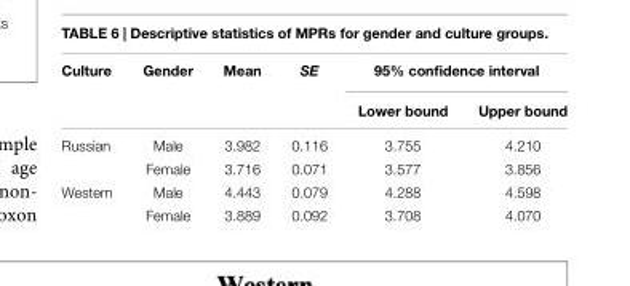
<table><thead><tr><td rowspan="2">Culture</td><td rowspan="2">Gender</td><td rowspan="2">Mean</td><td rowspan="2">SE</td><td colspan="2">95% confidence interval</td></tr><tr><td>Lower bound</td><td>Upper bound</td></tr></thead><tbody><tr><td rowspan="2">Russian</td><td>Male</td><td>3.982</td><td>0.116</td><td>3.755</td><td>4.210</td></tr><tr><td>Female</td><td>3.716</td><td>0.071</td><td>3.577</td><td>3.856</td></tr><tr><td rowspan="2">Western</td><td>Male</td><td>4.443</td><td>0.079</td><td>4.288</td><td>4.598</td></tr><tr><td>Female</td><td>3.889</td><td>0.092</td><td>3.708</td><td>4.070</td></tr></tbody></table>